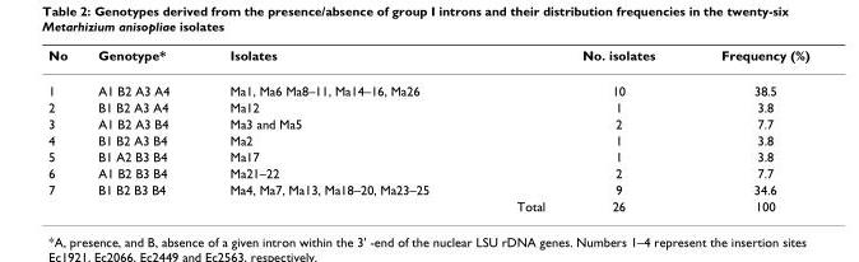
<table><thead><tr><td>No</td><td>Genotype*</td><td>Isolates</td><td>No. isolates</td><td>Frequency (%)</td></tr></thead><tbody><tr><td>1</td><td>A1 B2 A3 A4</td><td>Ma1, Ma6 Ma8–11, Ma14–16, Ma26</td><td>10</td><td>38.5</td></tr><tr><td>2</td><td>B1 B2 A3 A4</td><td>Ma12</td><td>1</td><td>3.8</td></tr><tr><td>3</td><td>A1 B2 A3 B4</td><td>Ma3 and Ma5</td><td>2</td><td>7.7</td></tr><tr><td>4</td><td>B1 B2 A3 B4</td><td>Ma2</td><td>1</td><td>3.8</td></tr><tr><td>5</td><td>B1 A2 B3 B4</td><td>Ma17</td><td>1</td><td>3.8</td></tr><tr><td>6</td><td>A1 B2 B3 B4</td><td>Ma21–22</td><td>2</td><td>7.7</td></tr><tr><td rowspan="2">7</td><td>B1 B2 B3 B4</td><td>Ma4, Ma7, Ma13, Ma18–20, Ma23–25</td><td>9</td><td>34.6</td></tr><tr><td></td><td>Total</td><td>26</td><td>100</td></tr></tbody></table>